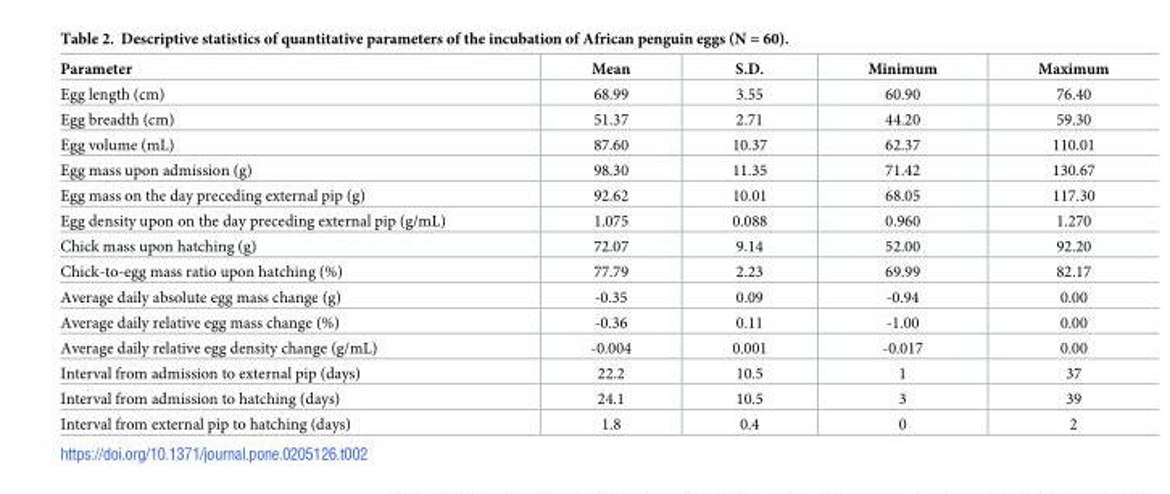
<table><thead><tr><td>Parameter</td><td>Mean</td><td>S.D.</td><td>Minimum</td><td>Maximum</td></tr></thead><tbody><tr><td>Egg length (cm)</td><td>68.99</td><td>3.55</td><td>60.90</td><td>76.40</td></tr><tr><td>Egg breadth (cm)</td><td>51.37</td><td>2.71</td><td>44.20</td><td>59.30</td></tr><tr><td>Egg volume (mL)</td><td>87.60</td><td>10.37</td><td>62.37</td><td>110.01</td></tr><tr><td>Egg mass upon admission (g)</td><td>98.30</td><td>11.35</td><td>71.42</td><td>130.67</td></tr><tr><td>Egg mass on the day preceding external pip (g)</td><td>92.62</td><td>10.01</td><td>68.05</td><td>117.30</td></tr><tr><td>Egg density upon on the day preceding external pip (g/mL)</td><td>1.075</td><td>0.088</td><td>0.960</td><td>1.270</td></tr><tr><td>Chick mass upon hatching (g)</td><td>72.07</td><td>9.14</td><td>52.00</td><td>92.20</td></tr><tr><td>Chick-to-egg mass ratio upon hatching (%)</td><td>77.79</td><td>2.23</td><td>69.99</td><td>82.17</td></tr><tr><td>Average daily absolute egg mass change (g)</td><td>-0.35</td><td>0.09</td><td>-0.94</td><td>0.00</td></tr><tr><td>Average daily relative egg mass change (%)</td><td>-0.36</td><td>0.11</td><td>-1.00</td><td>0.00</td></tr><tr><td>Average daily relative egg density change (g/mL)</td><td>-0.004</td><td>0.001</td><td>-0.017</td><td>0.00</td></tr><tr><td>Interval from admission to external pip (days)</td><td>22.2</td><td>10.5</td><td>1</td><td>37</td></tr><tr><td>Interval from admission to hatching (days)</td><td>24.1</td><td>10.5</td><td>3</td><td>39</td></tr><tr><td>Interval from external pip to hatching (days)</td><td>1.8</td><td>0.4</td><td>0</td><td>2</td></tr></tbody></table>